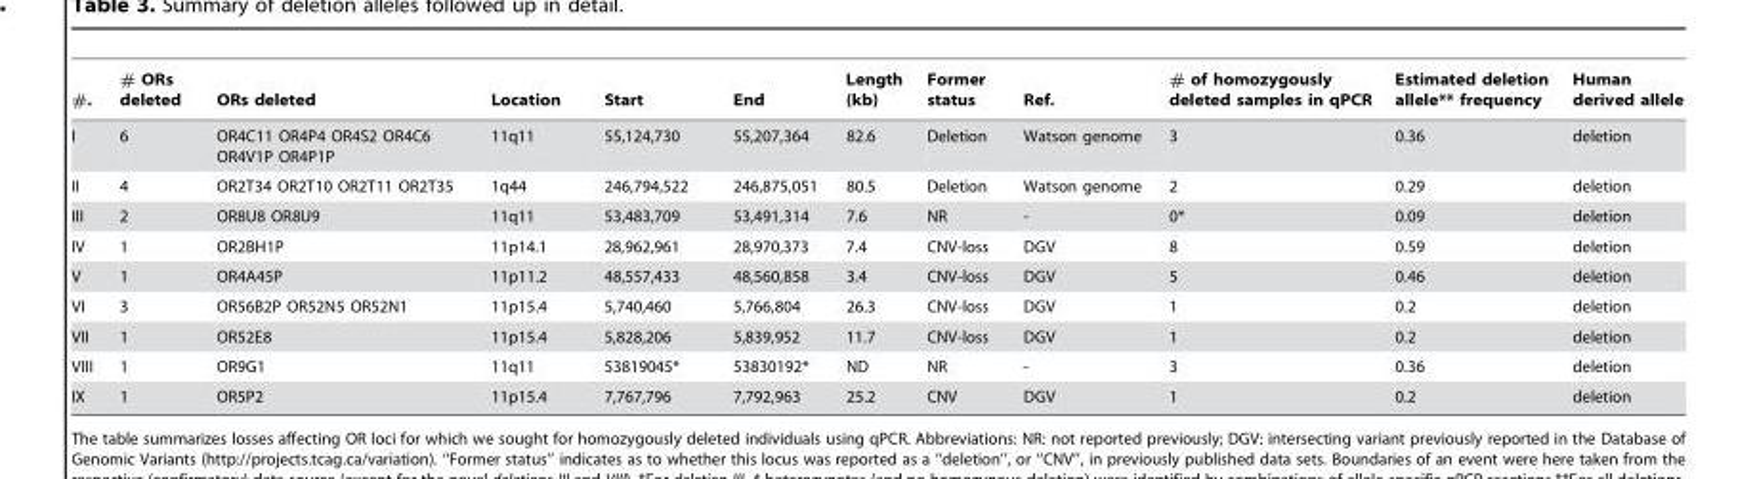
<table><thead><tr><td>#.</td><td># ORs deleted</td><td>ORs deleted</td><td>Location</td><td>Start</td><td>End</td><td>Length (kb)</td><td>Former status</td><td>Ref.</td><td># of homozygously deleted samples in qPCR</td><td>Estimated deletion allele** frequency</td><td>Human derived allele</td></tr></thead><tbody><tr><td>I</td><td>6</td><td>OR4C11 OR4P4 OR4S2 OR4C6 OR4V1P OR4P1P</td><td>11q11</td><td>55,124,730</td><td>55,207,364</td><td>82.6</td><td>Deletion</td><td>Watson genome</td><td>3</td><td>0.36</td><td>deletion</td></tr><tr><td>II</td><td>4</td><td>OR2T34 OR2T10 OR2T11 OR2T35</td><td>1q44</td><td>246,794,522</td><td>246,875,051</td><td>80.5</td><td>Deletion</td><td>Watson genome</td><td>2</td><td>0.29</td><td>deletion</td></tr><tr><td>III</td><td>2</td><td>OR8U8 OR8U9</td><td>11q11</td><td>53,483,709</td><td>53,491,314</td><td>7.6</td><td>NR</td><td>-</td><td>0*</td><td>0.09</td><td>deletion</td></tr><tr><td>IV</td><td>1</td><td>OR2BH1P</td><td>11p14.1</td><td>28,962,961</td><td>28,970,373</td><td>7.4</td><td>CNV-loss</td><td>DGV</td><td>8</td><td>0.59</td><td>deletion</td></tr><tr><td>V</td><td>1</td><td>OR4A45P</td><td>11p11.2</td><td>48,557,433</td><td>48,560,858</td><td>3.4</td><td>CNV-loss</td><td>DGV</td><td>5</td><td>0.46</td><td>deletion</td></tr><tr><td>VI</td><td>3</td><td>OR56B2P OR52N5 OR52N1</td><td>11p15.4</td><td>5,740,460</td><td>5,766,804</td><td>26.3</td><td>CNV-loss</td><td>DGV</td><td>1</td><td>0.2</td><td>deletion</td></tr><tr><td>VII</td><td>1</td><td>OR52E8</td><td>11p15.4</td><td>5,828,206</td><td>5,839,952</td><td>11.7</td><td>CNV-loss</td><td>DGV</td><td>1</td><td>0.2</td><td>deletion</td></tr><tr><td>VIII</td><td>1</td><td>OR9G1</td><td>11q11</td><td>53819045*</td><td>53830192*</td><td>ND</td><td>NR</td><td>-</td><td>3</td><td>0.36</td><td>deletion</td></tr><tr><td>IX</td><td>1</td><td>OR5P2</td><td>11p15.4</td><td>7,767,796</td><td>7,792,963</td><td>25.2</td><td>CNV</td><td>DGV</td><td>1</td><td>0.2</td><td>deletion</td></tr></tbody></table>